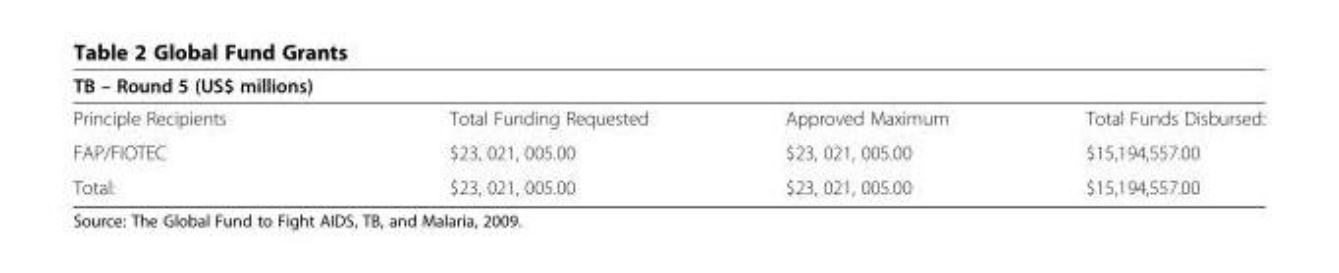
<table><thead><tr><td>TB – Round 5 (US$ millions)</td><td></td><td></td><td></td></tr></thead><tbody><tr><td>Principle Recipients</td><td>Total Funding Requested</td><td>Approved Maximum</td><td>Total Funds Disbursed:</td></tr><tr><td>FAP/FIOTEC</td><td>$23, 021, 005.00</td><td>$23, 021, 005.00</td><td>$15,194,557.00</td></tr><tr><td>Total:</td><td>$23, 021, 005.00</td><td>$23, 021, 005.00</td><td>$15,194,557.00</td></tr></tbody></table>